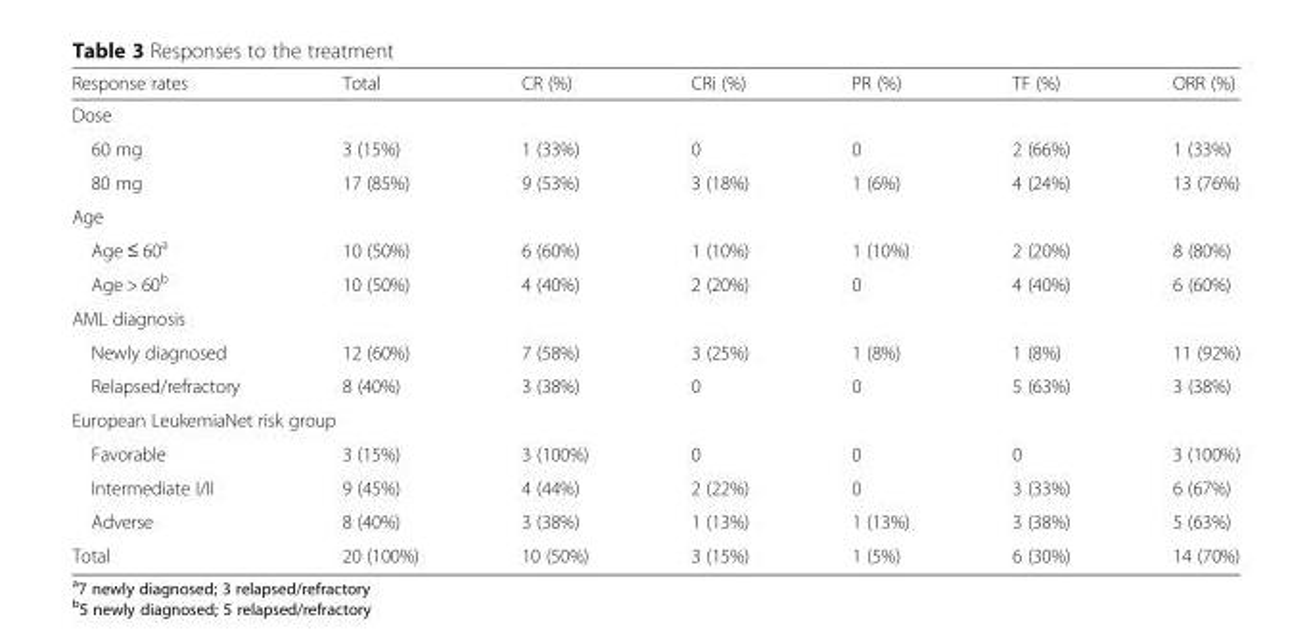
<table><thead><tr><td>Response rates</td><td>Total</td><td>CR (%)</td><td>CRi (%)</td><td>PR (%)</td><td>TF (%)</td><td>ORR (%)</td></tr></thead><tbody><tr><td colspan="7">Dose</td></tr><tr><td>60 mg</td><td>3 (15%)</td><td>1 (33%)</td><td>0</td><td>0</td><td>2 (66%)</td><td>1 (33%)</td></tr><tr><td>80 mg</td><td>17 (85%)</td><td>9 (53%)</td><td>3 (18%)</td><td>1 (6%)</td><td>4 (24%)</td><td>13 (76%)</td></tr><tr><td colspan="7">Age</td></tr><tr><td>Age ≤ 60<sup>a</sup></td><td>10 (50%)</td><td>6 (60%)</td><td>1 (10%)</td><td>1 (10%)</td><td>2 (20%)</td><td>8 (80%)</td></tr><tr><td>Age &gt; 60<sup>b</sup></td><td>10 (50%)</td><td>4 (40%)</td><td>2 (20%)</td><td>0</td><td>4 (40%)</td><td>6 (60%)</td></tr><tr><td colspan="7">AML diagnosis</td></tr><tr><td>Newly diagnosed</td><td>12 (60%)</td><td>7 (58%)</td><td>3 (25%)</td><td>1 (8%)</td><td>1 (8%)</td><td>11 (92%)</td></tr><tr><td>Relapsed/refractory</td><td>8 (40%)</td><td>3 (38%)</td><td>0</td><td>0</td><td>5 (63%)</td><td>3 (38%)</td></tr><tr><td colspan="7">European LeukemiaNet risk group</td></tr><tr><td>Favorable</td><td>3 (15%)</td><td>3 (100%)</td><td>0</td><td>0</td><td>0</td><td>3 (100%)</td></tr><tr><td>Intermediate I/II</td><td>9 (45%)</td><td>4 (44%)</td><td>2 (22%)</td><td>0</td><td>3 (33%)</td><td>6 (67%)</td></tr><tr><td>Adverse</td><td>8 (40%)</td><td>3 (38%)</td><td>1 (13%)</td><td>1 (13%)</td><td>3 (38%)</td><td>5 (63%)</td></tr><tr><td>Total</td><td>20 (100%)</td><td>10 (50%)</td><td>3 (15%)</td><td>1 (5%)</td><td>6 (30%)</td><td>14 (70%)</td></tr></tbody></table>